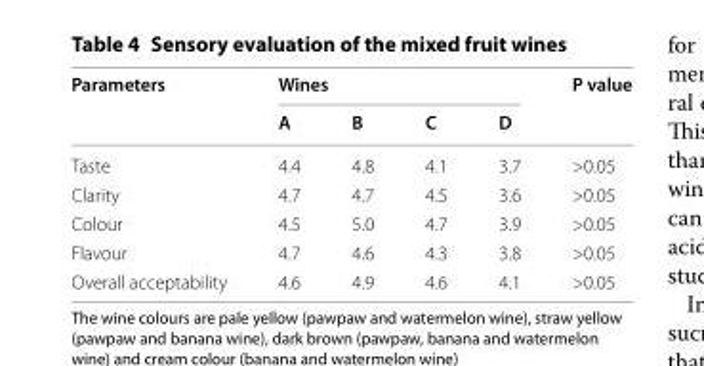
<table><thead><tr><td rowspan="2">Parameters</td><td colspan="4">Wines</td><td rowspan="2">P value</td></tr><tr><td>A</td><td>B</td><td>C</td><td>D</td></tr></thead><tbody><tr><td>Taste</td><td>4.4</td><td>4.8</td><td>4.1</td><td>3.7</td><td>&gt;0.05</td></tr><tr><td>Clarity</td><td>4.7</td><td>4.7</td><td>4.5</td><td>3.6</td><td>&gt;0.05</td></tr><tr><td>Colour</td><td>4.5</td><td>5.0</td><td>4.7</td><td>3.9</td><td>&gt;0.05</td></tr><tr><td>Flavour</td><td>4.7</td><td>4.6</td><td>4.3</td><td>3.8</td><td>&gt;0.05</td></tr><tr><td>Overall acceptability</td><td>4.6</td><td>4.9</td><td>4.6</td><td>4.1</td><td>&gt;0.05</td></tr></tbody></table>